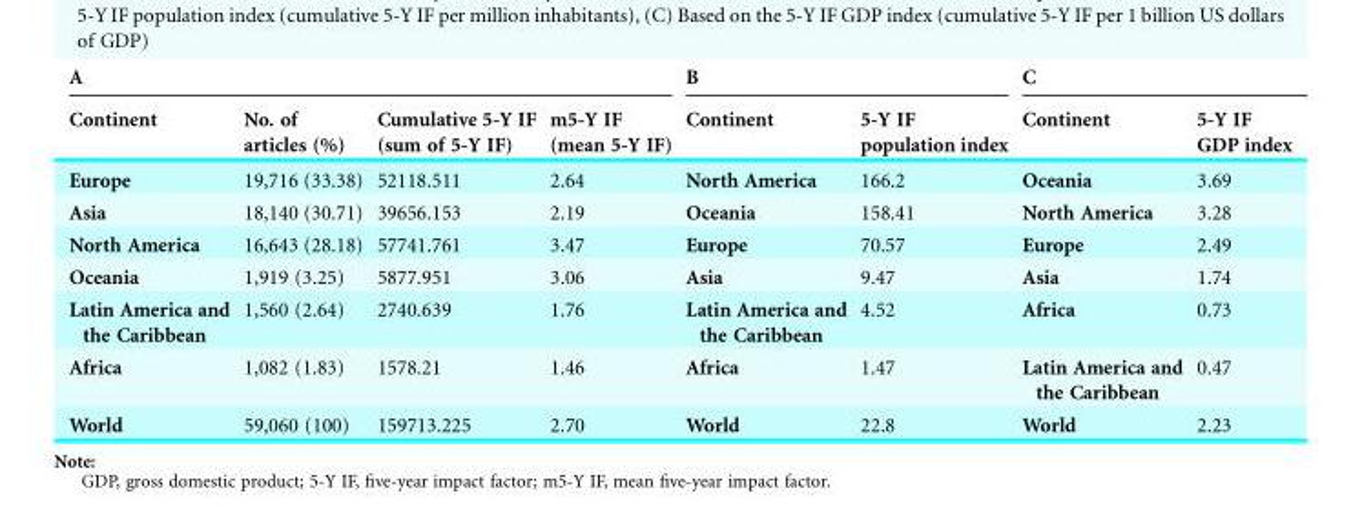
<table><thead><tr><td colspan="4">A</td><td colspan="2">B</td><td colspan="2">C</td></tr><tr><td>Continent</td><td>No. of articles (%)</td><td>Cumulative 5-Y IF (sum of 5-Y IF)</td><td>m5-Y IF (mean 5-Y IF)</td><td>Continent</td><td>5-Y IF population index</td><td>Continent</td><td>5-Y IF GDP index</td></tr></thead><tbody><tr><td>Europe</td><td>19,716 (33.38)</td><td>52118.511</td><td>2.64</td><td>North America</td><td>166.2</td><td>Oceania</td><td>3.69</td></tr><tr><td>Asia</td><td>18,140 (30.71)</td><td>39656.153</td><td>2.19</td><td>Oceania</td><td>158.41</td><td>North America</td><td>3.28</td></tr><tr><td>North America</td><td>16,643 (28.18)</td><td>57741.761</td><td>3.47</td><td>Europe</td><td>70.57</td><td>Europe</td><td>2.49</td></tr><tr><td>Oceania</td><td>1,919 (3.25)</td><td>5877.951</td><td>3.06</td><td>Asia</td><td>9.47</td><td>Asia</td><td>1.74</td></tr><tr><td>Latin America and the Caribbean</td><td>1,560 (2.64)</td><td>2740.639</td><td>1.76</td><td>Latin America and the Caribbean</td><td>4.52</td><td>Africa</td><td>0.73</td></tr><tr><td>Africa</td><td>1,082 (1.83)</td><td>1578.21</td><td>1.46</td><td>Africa</td><td>1.47</td><td>Latin America and the Caribbean</td><td>0.47</td></tr><tr><td>World</td><td>59,060 (100)</td><td>159713.225</td><td>2.70</td><td>World</td><td>22.8</td><td>World</td><td>2.23</td></tr></tbody></table>